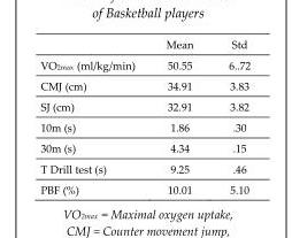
<table><thead><tr><td></td><td>Mean</td><td>Std</td></tr></thead><tbody><tr><td>VO<sub>2max</sub> (ml/kg/min)</td><td>50.55</td><td>6..72</td></tr><tr><td>CMJ (cm)</td><td>34.91</td><td>3.83</td></tr><tr><td>SJ (cm)</td><td>32.91</td><td>3.82</td></tr><tr><td>10m (s)</td><td>1.86</td><td>.30</td></tr><tr><td>30m (s)</td><td>4.34</td><td>.15</td></tr><tr><td>T Drill test (s)</td><td>9.25</td><td>.46</td></tr><tr><td>PBF (%)</td><td>10.01</td><td>5.10</td></tr></tbody></table>